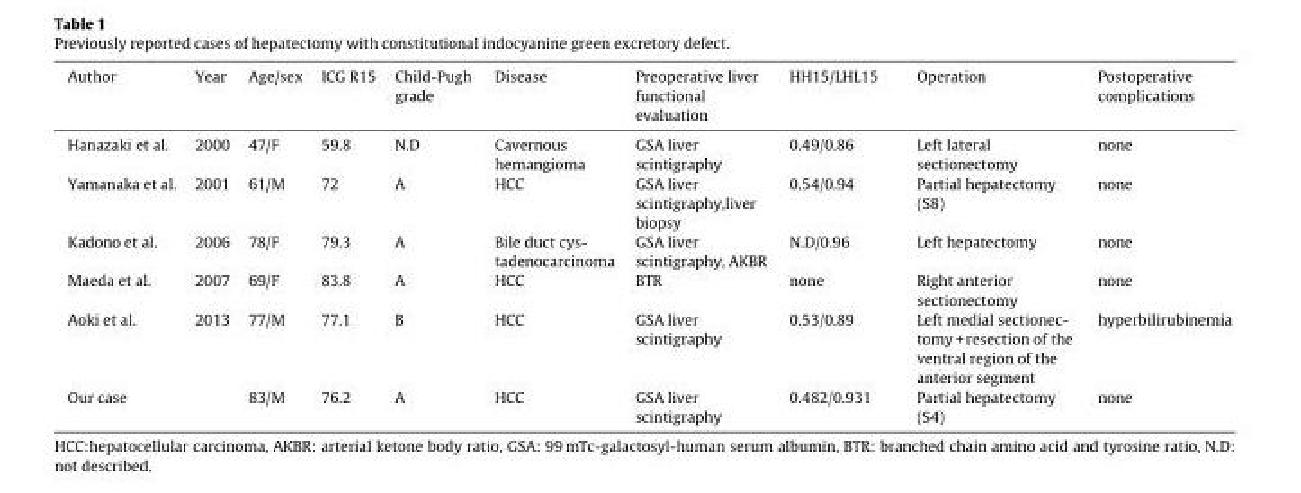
<table><thead><tr><td>Author</td><td>Year</td><td>Age/sex</td><td>ICG R15</td><td>Child-Pugh grade</td><td>Disease</td><td>Preoperative liver functional evaluation</td><td>HH15/LHL15</td><td>Operation</td><td>Postoperative complications</td></tr></thead><tbody><tr><td>Hanazaki et al.</td><td>2000</td><td>47/F</td><td>59.8</td><td>N.D</td><td>Cavernous hemangioma</td><td>GSA liver scintigraphy</td><td>0.49/0.86</td><td>Left lateral sectionectomy</td><td>none</td></tr><tr><td>Yamanaka et al.</td><td>2001</td><td>61/M</td><td>72</td><td>A</td><td>HCC</td><td>GSA liver scintigraphy,liver biopsy</td><td>0.54/0.94</td><td>Partial hepatectomy (S8)</td><td>none</td></tr><tr><td>Kadono et al.</td><td>2006</td><td>78/F</td><td>79.3</td><td>A</td><td>Bile duct cys- tadenocarcinoma</td><td>GSA liver scintigraphy, AKBR</td><td>N.D/0.96</td><td>Left hepatectomy</td><td>none</td></tr><tr><td>Maeda et al.</td><td>2007</td><td>69/F</td><td>83.8</td><td>A</td><td>HCC</td><td>BTR</td><td>none</td><td>Right anterior sectionectomy</td><td>none</td></tr><tr><td>Aoki et al.</td><td>2013</td><td>77/M</td><td>77.1</td><td>B</td><td>HCC</td><td>GSA liver scintigraphy</td><td>0.53/0.89</td><td>Left medial sectionec- tomy + resection of the ventral region of the anterior segment</td><td>hyperbilirubinemia</td></tr><tr><td>Our case</td><td></td><td>83/M</td><td>76.2</td><td>A</td><td>HCC</td><td>GSA liver scintigraphy</td><td>0.482/0.931</td><td>Partial hepatectomy (S4)</td><td>none</td></tr></tbody></table>